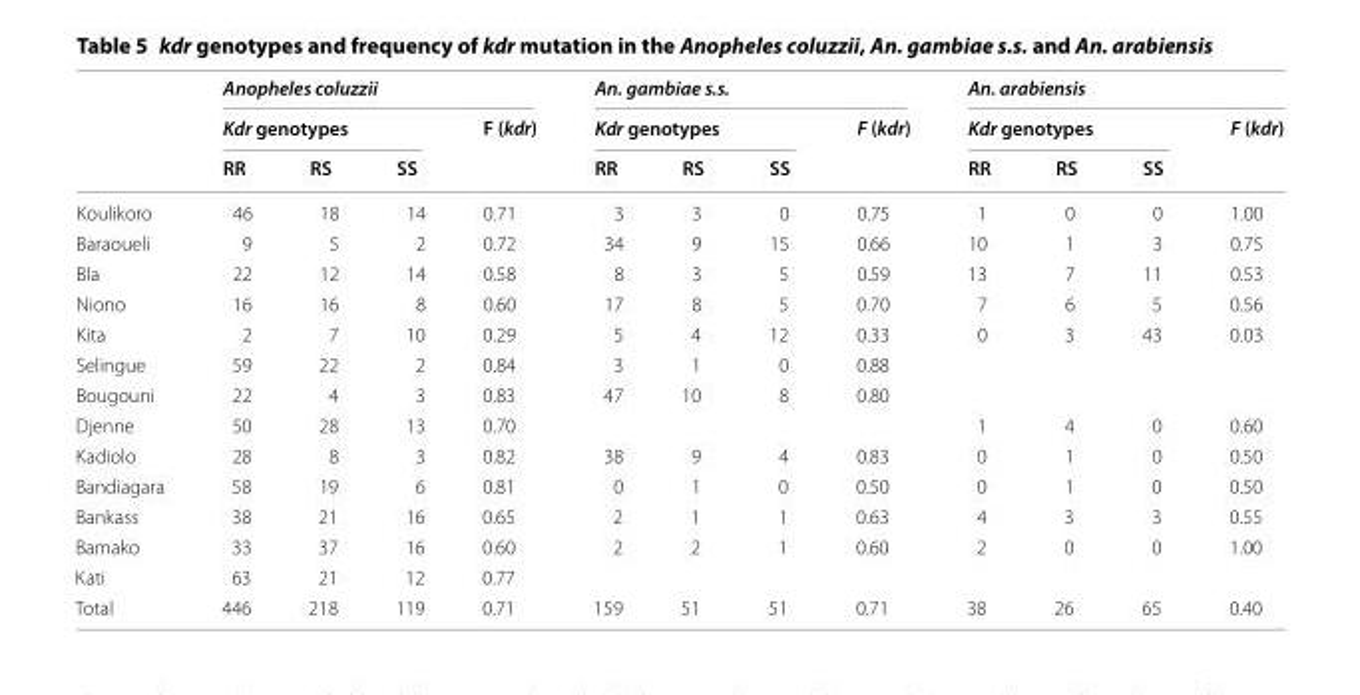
<table><thead><tr><td rowspan="3"></td><td colspan="4">Anopheles coluzzii</td><td colspan="4">An. gambiae s.s.</td><td colspan="4">An. arabiensis</td></tr><tr><td colspan="3">Kdr genotypes</td><td rowspan="2">F (kdr)</td><td colspan="3">Kdr genotypes</td><td rowspan="2">F (kdr)</td><td colspan="3">Kdr genotypes</td><td rowspan="2">F (kdr)</td></tr><tr><td>RR</td><td>RS</td><td>SS</td><td>RR</td><td>RS</td><td>SS</td><td>RR</td><td>RS</td><td>SS</td></tr></thead><tbody><tr><td>Koulikoro</td><td>46</td><td>18</td><td>14</td><td>0.71</td><td>3</td><td>3</td><td>0</td><td>0.75</td><td>1</td><td>0</td><td>0</td><td>1.00</td></tr><tr><td>Baraoueli</td><td>9</td><td>5</td><td>2</td><td>0.72</td><td>34</td><td>9</td><td>15</td><td>0.66</td><td>10</td><td>1</td><td>3</td><td>0.75</td></tr><tr><td>Bla</td><td>22</td><td>12</td><td>14</td><td>0.58</td><td>8</td><td>3</td><td>5</td><td>0.59</td><td>13</td><td>7</td><td>11</td><td>0.53</td></tr><tr><td>Niono</td><td>16</td><td>16</td><td>8</td><td>0.60</td><td>17</td><td>8</td><td>5</td><td>0.70</td><td>7</td><td>6</td><td>5</td><td>0.56</td></tr><tr><td>Kita</td><td>2</td><td>7</td><td>10</td><td>0.29</td><td>5</td><td>4</td><td>12</td><td>0.33</td><td>0</td><td>3</td><td>43</td><td>0.03</td></tr><tr><td>Selingue</td><td>59</td><td>22</td><td>2</td><td>0.84</td><td>3</td><td>1</td><td>0</td><td>0.88</td><td></td><td></td><td></td><td></td></tr><tr><td>Bougouni</td><td>22</td><td>4</td><td>3</td><td>0.83</td><td>47</td><td>10</td><td>8</td><td>0.80</td><td></td><td></td><td></td><td></td></tr><tr><td>Djenne</td><td>50</td><td>28</td><td>13</td><td>0.70</td><td></td><td></td><td></td><td></td><td>1</td><td>4</td><td>0</td><td>0.60</td></tr><tr><td>Kadiolo</td><td>28</td><td>8</td><td>3</td><td>0.82</td><td>38</td><td>9</td><td>4</td><td>0.83</td><td>0</td><td>1</td><td>0</td><td>0.50</td></tr><tr><td>Bandiagara</td><td>58</td><td>19</td><td>6</td><td>0.81</td><td>0</td><td>1</td><td>0</td><td>0.50</td><td>0</td><td>1</td><td>0</td><td>0.50</td></tr><tr><td>Bankass</td><td>38</td><td>21</td><td>16</td><td>0.65</td><td>2</td><td>1</td><td>1</td><td>0.63</td><td>4</td><td>3</td><td>3</td><td>0.55</td></tr><tr><td>Bamako</td><td>33</td><td>37</td><td>16</td><td>0.60</td><td>2</td><td>2</td><td>1</td><td>0.60</td><td>2</td><td>0</td><td>0</td><td>1.00</td></tr><tr><td>Kati</td><td>63</td><td>21</td><td>12</td><td>0.77</td><td></td><td></td><td></td><td></td><td></td><td></td><td></td><td></td></tr><tr><td>Total</td><td>446</td><td>218</td><td>119</td><td>0.71</td><td>159</td><td>51</td><td>51</td><td>0.71</td><td>38</td><td>26</td><td>65</td><td>0.40</td></tr></tbody></table>